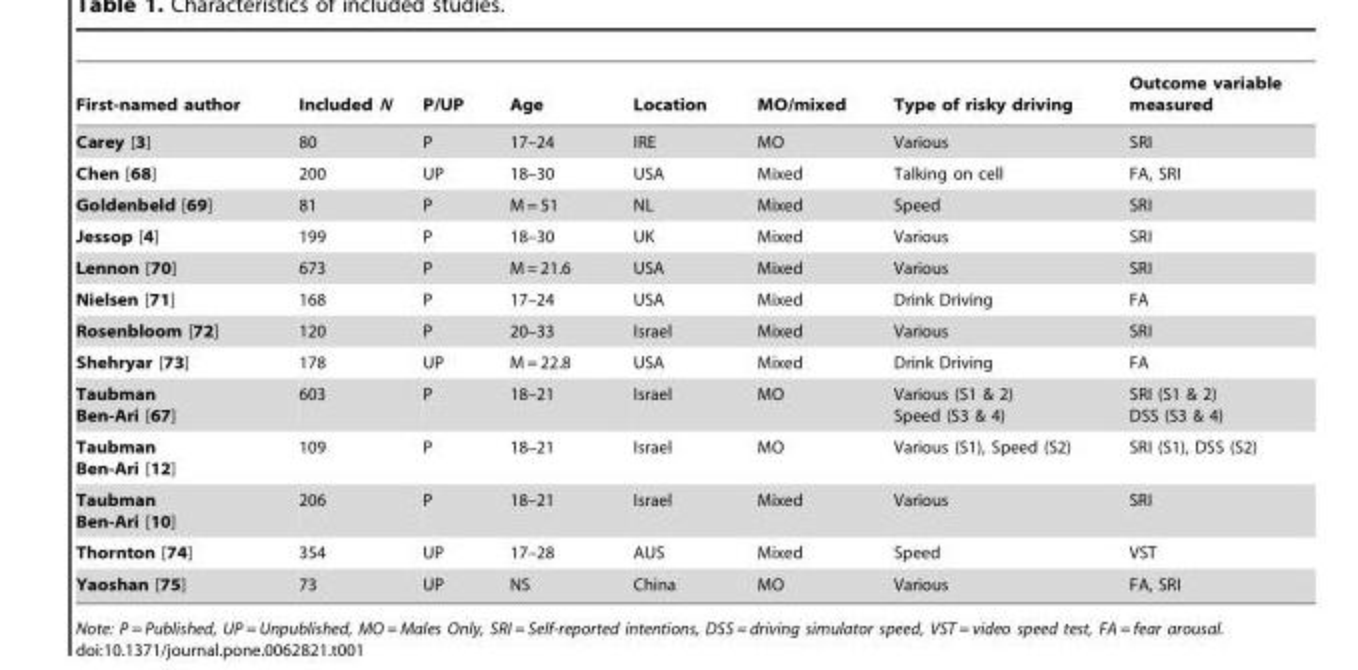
<table><thead><tr><td>First-named author</td><td>Included N</td><td>P/UP</td><td>Age</td><td>Location</td><td>MO/mixed</td><td>Type of risky driving</td><td>Outcome variable measured</td></tr></thead><tbody><tr><td>Carey [3]</td><td>80</td><td>P</td><td>17–24</td><td>IRE</td><td>MO</td><td>Various</td><td>SRI</td></tr><tr><td>Chen [68]</td><td>200</td><td>UP</td><td>18–30</td><td>USA</td><td>Mixed</td><td>Talking on cell</td><td>FA, SRI</td></tr><tr><td>Goldenbeld [69]</td><td>81</td><td>P</td><td>M = 51</td><td>NL</td><td>Mixed</td><td>Speed</td><td>SRI</td></tr><tr><td>Jessop [4]</td><td>199</td><td>P</td><td>18–30</td><td>UK</td><td>Mixed</td><td>Various</td><td>SRI</td></tr><tr><td>Lennon [70]</td><td>673</td><td>P</td><td>M = 21.6</td><td>USA</td><td>Mixed</td><td>Various</td><td>SRI</td></tr><tr><td>Nielsen [71]</td><td>168</td><td>P</td><td>17–24</td><td>USA</td><td>Mixed</td><td>Drink Driving</td><td>FA</td></tr><tr><td>Rosenbloom [72]</td><td>120</td><td>P</td><td>20–33</td><td>Israel</td><td>Mixed</td><td>Various</td><td>SRI</td></tr><tr><td>Shehryar [73]</td><td>178</td><td>UP</td><td>M = 22.8</td><td>USA</td><td>Mixed</td><td>Drink Driving</td><td>FA</td></tr><tr><td>Taubman Ben-Ari [67]</td><td>603</td><td>P</td><td>18–21</td><td>Israel</td><td>MO</td><td>Various (S1 &amp; 2) Speed (S3 &amp; 4)</td><td>SRI (S1 &amp; 2) DSS (S3 &amp; 4)</td></tr><tr><td>Taubman Ben-Ari [12]</td><td>109</td><td>P</td><td>18–21</td><td>Israel</td><td>MO</td><td>Various (S1), Speed (S2)</td><td>SRI (S1), DSS (S2)</td></tr><tr><td>Taubman Ben-Ari [10]</td><td>206</td><td>P</td><td>18–21</td><td>Israel</td><td>Mixed</td><td>Various</td><td>SRI</td></tr><tr><td>Thornton [74]</td><td>354</td><td>UP</td><td>17–28</td><td>AUS</td><td>Mixed</td><td>Speed</td><td>VST</td></tr><tr><td>Yaoshan [75]</td><td>73</td><td>UP</td><td>NS</td><td>China</td><td>MO</td><td>Various</td><td>FA, SRI</td></tr></tbody></table>